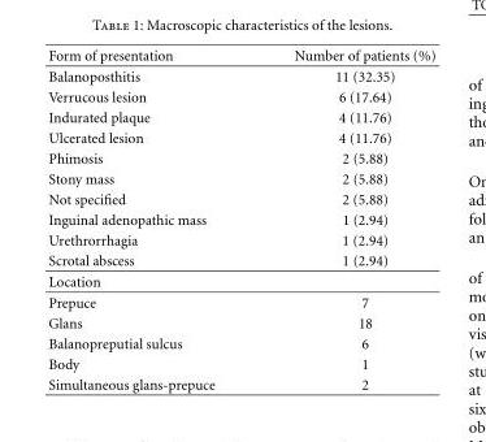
<table><thead><tr><td>Form of presentation</td><td>Number of patients (%)</td></tr></thead><tbody><tr><td>Balanoposthitis</td><td>11 (32.35)</td></tr><tr><td>Verrucous lesion</td><td>6 (17.64)</td></tr><tr><td>Indurated plaque</td><td>4 (11.76)</td></tr><tr><td>Ulcerated lesion</td><td>4 (11.76)</td></tr><tr><td>Phimosis</td><td>2 (5.88)</td></tr><tr><td>Stony mass</td><td>2 (5.88)</td></tr><tr><td>Not specified</td><td>2 (5.88)</td></tr><tr><td>Inguinal adenopathic mass</td><td>1 (2.94)</td></tr><tr><td>Urethrorrhagia</td><td>1 (2.94)</td></tr><tr><td>Scrotal abscess</td><td>1 (2.94)</td></tr><tr><td colspan="2">Location</td></tr><tr><td>Prepuce</td><td>7</td></tr><tr><td>Glans</td><td>18</td></tr><tr><td>Balanopreputial sulcus</td><td>6</td></tr><tr><td>Body</td><td>1</td></tr><tr><td>Simultaneous glans-prepuce</td><td>2</td></tr></tbody></table>